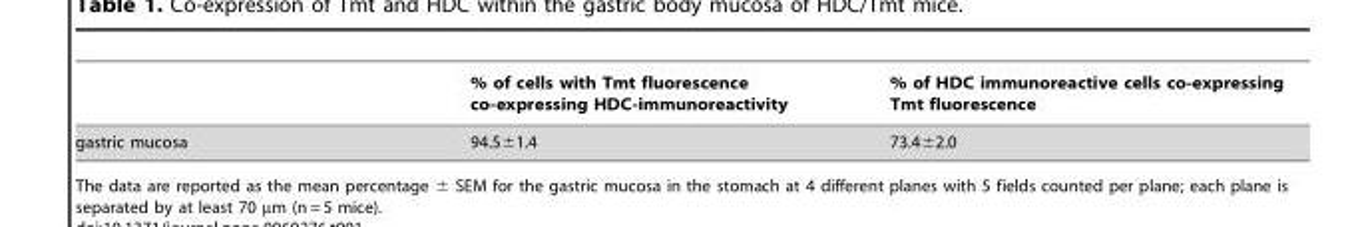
<table><thead><tr><td></td><td>% of cells with Tmt fluorescence co-expressing HDC-immunoreactivity</td><td>% of HDC immunoreactive cells co-expressing Tmt fluorescence</td></tr></thead><tbody><tr><td>gastric mucosa</td><td>94.5±1.4</td><td>73.4±2.0</td></tr></tbody></table>